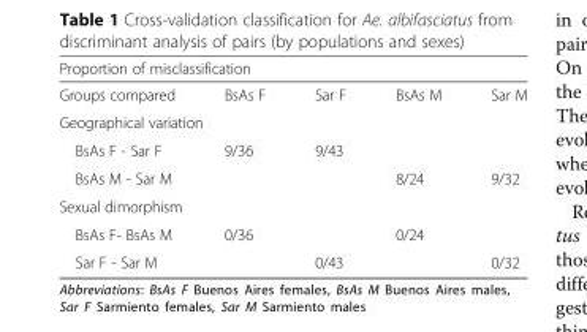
<table><thead><tr><td colspan="5">Proportion of misclassification</td></tr><tr><td>Groups compared</td><td>BsAs F</td><td>Sar F</td><td>BsAs M</td><td>Sar M</td></tr></thead><tbody><tr><td colspan="5">Geographical variation</td></tr><tr><td>BsAs F - Sar F</td><td>9/36</td><td>9/43</td><td></td><td></td></tr><tr><td>BsAs M - Sar M</td><td></td><td></td><td>8/24</td><td>9/32</td></tr><tr><td colspan="5">Sexual dimorphism</td></tr><tr><td>BsAs F- BsAs M</td><td>0/36</td><td></td><td>0/24</td><td></td></tr><tr><td>Sar F - Sar M</td><td></td><td>0/43</td><td></td><td>0/32</td></tr></tbody></table>